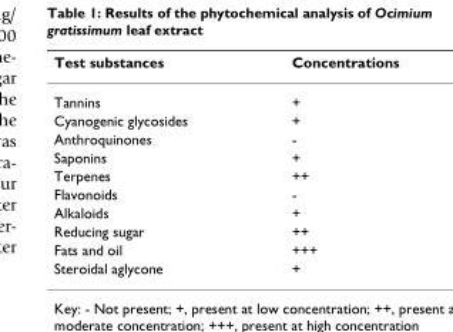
<table><thead><tr><td>Test substances</td><td>Concentrations</td></tr></thead><tbody><tr><td>Tannins</td><td>+</td></tr><tr><td>Cyanogenic glycosides</td><td>+</td></tr><tr><td>Anthroquinones</td><td>-</td></tr><tr><td>Saponins</td><td>+</td></tr><tr><td>Terpenes</td><td>++</td></tr><tr><td>Flavonoids</td><td>-</td></tr><tr><td>Alkaloids</td><td>+</td></tr><tr><td>Reducing sugar</td><td>++</td></tr><tr><td>Fats and oil</td><td>+++</td></tr><tr><td>Steroidal aglycone</td><td>+</td></tr></tbody></table>